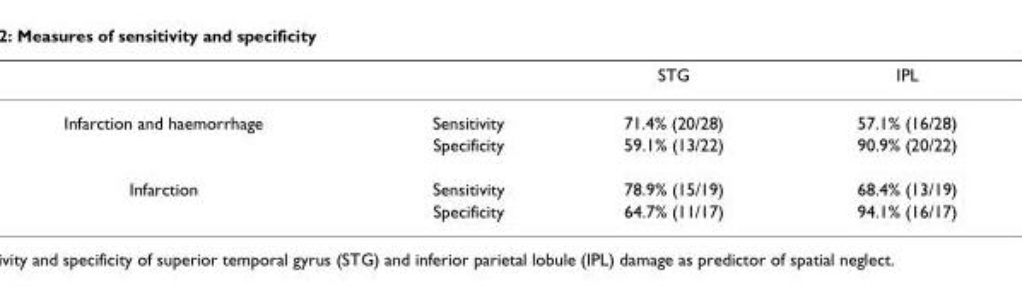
<table><thead><tr><td></td><td></td><td>STG</td><td>IPL</td></tr></thead><tbody><tr><td rowspan="2">Infarction and haemorrhage</td><td>Sensitivity</td><td>71.4% (20/28)</td><td>57.1% (16/28)</td></tr><tr><td>Specificity</td><td>59.1% (13/22)</td><td>90.9% (20/22)</td></tr><tr><td rowspan="2">Infarction</td><td>Sensitivity</td><td>78.9% (15/19)</td><td>68.4% (13/19)</td></tr><tr><td>Specificity</td><td>64.7% (11/17)</td><td>94.1% (16/17)</td></tr></tbody></table>